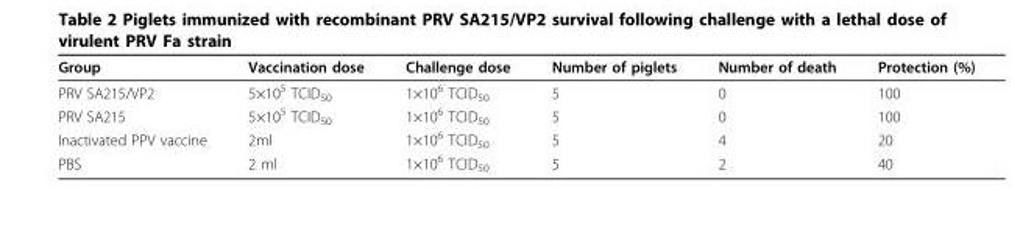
<table><thead><tr><td>Group</td><td>Vaccination dose</td><td>Challenge dose</td><td>Number of piglets</td><td>Number of death</td><td>Protection (%)</td></tr></thead><tbody><tr><td>PRV SA215/VP2</td><td>5×10<sup>5</sup> TCID<sub>50</sub></td><td>1×10<sup>6</sup> TCID<sub>50</sub></td><td>5</td><td>0</td><td>100</td></tr><tr><td>PRV SA215</td><td>5×10<sup>5</sup> TCID<sub>50</sub></td><td>1×10<sup>6</sup> TCID<sub>50</sub></td><td>5</td><td>0</td><td>100</td></tr><tr><td>Inactivated PPV vaccine</td><td>2ml</td><td>1×10<sup>6</sup> TCID<sub>50</sub></td><td>5</td><td>4</td><td>20</td></tr><tr><td>PBS</td><td>2 ml</td><td>1×10<sup>6</sup> TCID<sub>50</sub></td><td>5</td><td>2</td><td>40</td></tr></tbody></table>